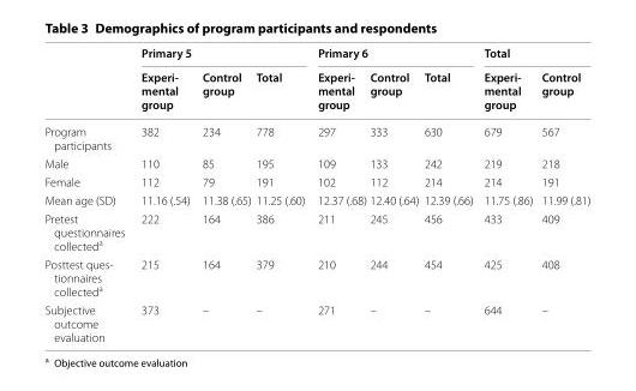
<table><thead><tr><td rowspan="2"></td><td colspan="3">Primary 5</td><td colspan="3">Primary 6</td><td colspan="2">Total</td></tr><tr><td>Experi- mental group</td><td>Control group</td><td>Total</td><td>Experi- mental group</td><td>Control group</td><td>Total</td><td>Experi- mental group</td><td>Control group</td></tr></thead><tbody><tr><td>Program participants</td><td>382</td><td>234</td><td>778</td><td>297</td><td>333</td><td>630</td><td>679</td><td>567</td></tr><tr><td>Male</td><td>110</td><td>85</td><td>195</td><td>109</td><td>133</td><td>242</td><td>219</td><td>218</td></tr><tr><td>Female</td><td>112</td><td>79</td><td>191</td><td>102</td><td>112</td><td>214</td><td>214</td><td>191</td></tr><tr><td>Mean age (SD)</td><td>11.16 (.54)</td><td>11.38 (.65)</td><td>11.25 (.60)</td><td>12.37 (.68)</td><td>12.40 (.64)</td><td>12.39 (.66)</td><td>11.75 (.86)</td><td>11.99 (.81)</td></tr><tr><td>Pretest questionnaires collected<sup>a</sup></td><td>222</td><td>164</td><td>386</td><td>211</td><td>245</td><td>456</td><td>433</td><td>409</td></tr><tr><td>Posttest ques- tionnaires collecteda</td><td>215</td><td>164</td><td>379</td><td>210</td><td>244</td><td>454</td><td>425</td><td>408</td></tr><tr><td>Subjective outcome evaluation</td><td>373</td><td>–</td><td>–</td><td>271</td><td>–</td><td>–</td><td>644</td><td>–</td></tr></tbody></table>